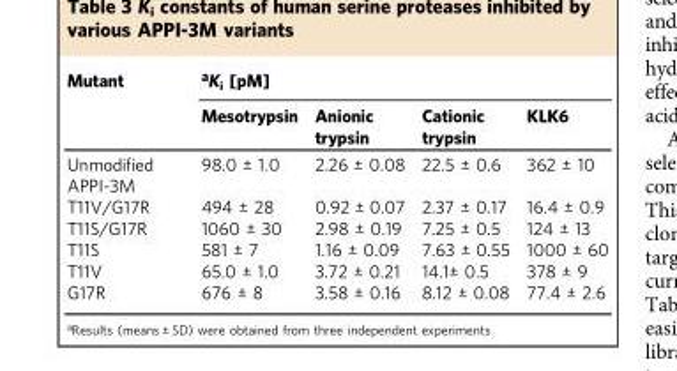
<table><thead><tr><td rowspan="2">Mutant</td><td colspan="4"><sup>a</sup>K<sub>i</sub> [pM]</td></tr><tr><td>Mesotrypsin</td><td>Anionic trypsin</td><td>Cationic trypsin</td><td>KLK6</td></tr></thead><tbody><tr><td>Unmodified APPI-3M</td><td>98.0 ± 1.0</td><td>2.26 ± 0.08</td><td>22.5 ± 0.6</td><td>362 ± 10</td></tr><tr><td>T11V/G17R</td><td>494 ± 28</td><td>0.92 ± 0.07</td><td>2.37 ± 0.17</td><td>16.4 ± 0.9</td></tr><tr><td>T11S/G17R</td><td>1060 ± 30</td><td>2.98 ± 0.19</td><td>7.25 ± 0.5</td><td>124 ± 13</td></tr><tr><td>T11S</td><td>581 ± 7</td><td>1.16 ± 0.09</td><td>7.63 ± 0.55</td><td>1000 ± 60</td></tr><tr><td>T11V</td><td>65.0 ± 1.0</td><td>3.72 ± 0.21</td><td>14.1± 0.5</td><td>378 ± 9</td></tr><tr><td>G17R</td><td>676 ± 8</td><td>3.58 ± 0.16</td><td>8.12 ± 0.08</td><td>77.4 ± 2.6</td></tr></tbody></table>